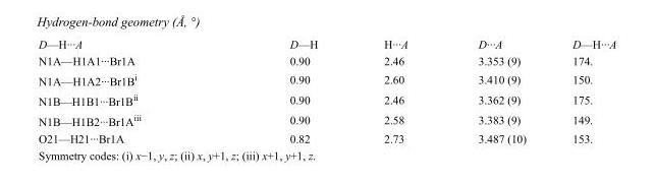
<table><tbody><tr><td>D—H···A</td><td>D—H</td><td>H···A</td><td>D···A</td><td>D—H···A</td></tr><tr><td>N1A—H1A1···Br1A</td><td>0.90</td><td>2.46</td><td>3.353 (9)</td><td>174.</td></tr><tr><td>N1A—H1A2···Br1B<sup>i</sup></td><td>0.90</td><td>2.60</td><td>3.410 (9)</td><td>150.</td></tr><tr><td>N1B—H1B1···Br1B<sup>ii</sup></td><td>0.90</td><td>2.46</td><td>3.362 (9)</td><td>175.</td></tr><tr><td>N1B—H1B2···Br1A<sup>iii</sup></td><td>0.90</td><td>2.58</td><td>3.383 (9)</td><td>149.</td></tr><tr><td>O21—H21···Br1A</td><td>0.82</td><td>2.73</td><td>3.487 (10)</td><td>153.</td></tr></tbody></table>